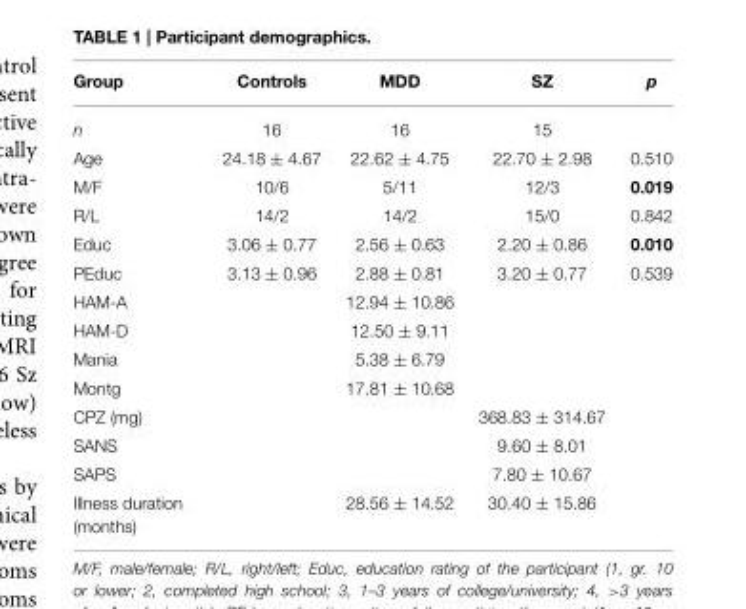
<table><thead><tr><td>Group</td><td>Controls</td><td>MDD</td><td>SZ</td><td>p</td></tr></thead><tbody><tr><td>n</td><td>16</td><td>16</td><td>15</td><td></td></tr><tr><td>Age</td><td>24.18 ± 4.67</td><td>22.62 ± 4.75</td><td>22.70 ± 2.98</td><td>0.510</td></tr><tr><td>M/F</td><td>10/6</td><td>5/11</td><td>12/3</td><td>0.019</td></tr><tr><td>R/L</td><td>14/2</td><td>14/2</td><td>15/0</td><td>0.842</td></tr><tr><td>Educ</td><td>3.06 ± 0.77</td><td>2.56 ± 0.63</td><td>2.20 ± 0.86</td><td>0.010</td></tr><tr><td>PEduc</td><td>3.13 ± 0.96</td><td>2.88 ± 0.81</td><td>3.20 ± 0.77</td><td>0.539</td></tr><tr><td>HAM-A</td><td></td><td>12.94 ± 10.86</td><td></td><td></td></tr><tr><td>HAM-D</td><td></td><td>12.50 ± 9.11</td><td></td><td></td></tr><tr><td>Mania</td><td></td><td>5.38 ± 6.79</td><td></td><td></td></tr><tr><td>Montg</td><td></td><td>17.81 ± 10.68</td><td></td><td></td></tr><tr><td>CPZ (mg)</td><td></td><td></td><td>368.83 ± 314.67</td><td></td></tr><tr><td>SANS</td><td></td><td></td><td>9.60 ± 8.01</td><td></td></tr><tr><td>SAPS</td><td></td><td></td><td>7.80 ± 10.67</td><td></td></tr><tr><td>Illness duration (months)</td><td></td><td>28.56 ± 14.52</td><td>30.40 ± 15.86</td><td></td></tr></tbody></table>